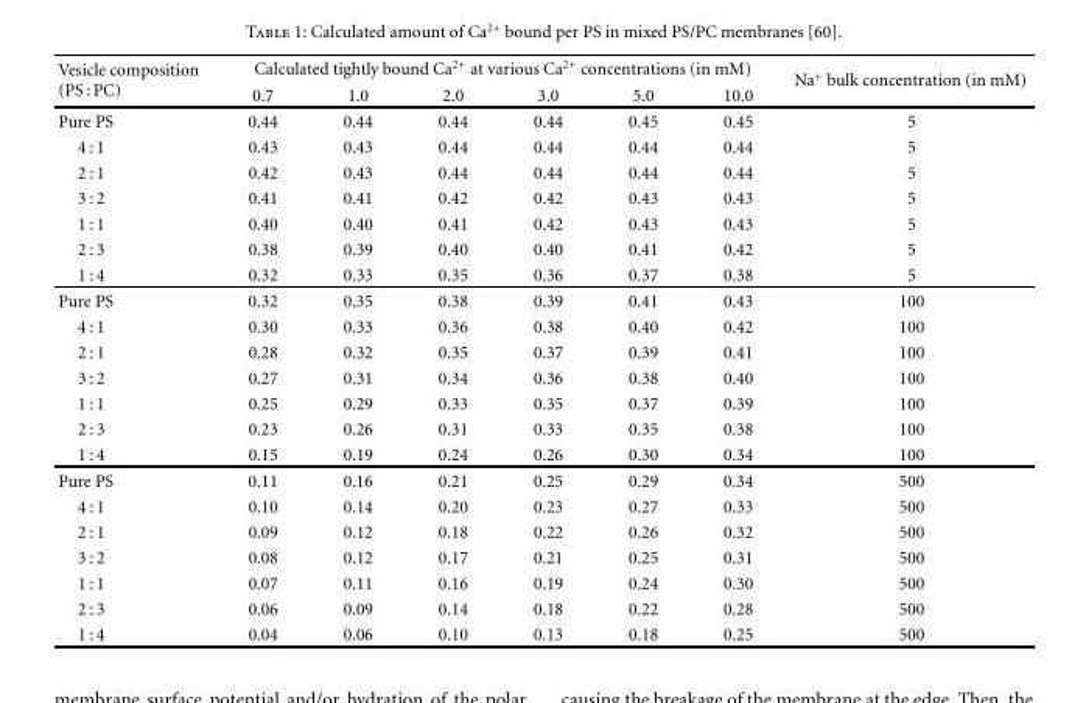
<table><thead><tr><td rowspan="2">Vesicle composition (PS : PC)</td><td colspan="6">Calculated tightly bound Ca<sup>2+</sup> at various Ca<sup>2+</sup> concentrations (in mM)</td><td rowspan="2">Na<sup>+</sup> bulk concentration (in mM)</td></tr><tr><td>0.7</td><td>1.0</td><td>2.0</td><td>3.0</td><td>5.0</td><td>10.0</td></tr></thead><tbody><tr><td>Pure PS</td><td>0.44</td><td>0.44</td><td>0.44</td><td>0.44</td><td>0.45</td><td>0.45</td><td>5</td></tr><tr><td>4 : 1</td><td>0.43</td><td>0.43</td><td>0.44</td><td>0.44</td><td>0.44</td><td>0.44</td><td>5</td></tr><tr><td>2 : 1</td><td>0.42</td><td>0.43</td><td>0.44</td><td>0.44</td><td>0.44</td><td>0.44</td><td>5</td></tr><tr><td>3 : 2</td><td>0.41</td><td>0.41</td><td>0.42</td><td>0.42</td><td>0.43</td><td>0.43</td><td>5</td></tr><tr><td>1 : 1</td><td>0.40</td><td>0.40</td><td>0.41</td><td>0.42</td><td>0.43</td><td>0.43</td><td>5</td></tr><tr><td>2 : 3</td><td>0.38</td><td>0.39</td><td>0.40</td><td>0.40</td><td>0.41</td><td>0.42</td><td>5</td></tr><tr><td>1 : 4</td><td>0.32</td><td>0.33</td><td>0.35</td><td>0.36</td><td>0.37</td><td>0.38</td><td>5</td></tr><tr><td>Pure PS</td><td>0.32</td><td>0.35</td><td>0.38</td><td>0.39</td><td>0.41</td><td>0.43</td><td>100</td></tr><tr><td>4 : 1</td><td>0.30</td><td>0.33</td><td>0.36</td><td>0.38</td><td>0.40</td><td>0.42</td><td>100</td></tr><tr><td>2 : 1</td><td>0.28</td><td>0.32</td><td>0.35</td><td>0.37</td><td>0.39</td><td>0.41</td><td>100</td></tr><tr><td>3 : 2</td><td>0.27</td><td>0.31</td><td>0.34</td><td>0.36</td><td>0.38</td><td>0.40</td><td>100</td></tr><tr><td>1 : 1</td><td>0.25</td><td>0.29</td><td>0.33</td><td>0.35</td><td>0.37</td><td>0.39</td><td>100</td></tr><tr><td>2 : 3</td><td>0.23</td><td>0.26</td><td>0.31</td><td>0.33</td><td>0.35</td><td>0.38</td><td>100</td></tr><tr><td>1 : 4</td><td>0.15</td><td>0.19</td><td>0.24</td><td>0.26</td><td>0.30</td><td>0.34</td><td>100</td></tr><tr><td>Pure PS</td><td>0.11</td><td>0.16</td><td>0.21</td><td>0.25</td><td>0.29</td><td>0.34</td><td>500</td></tr><tr><td>4 : 1</td><td>0.10</td><td>0.14</td><td>0.20</td><td>0.23</td><td>0.27</td><td>0.33</td><td>500</td></tr><tr><td>2 : 1</td><td>0.09</td><td>0.12</td><td>0.18</td><td>0.22</td><td>0.26</td><td>0.32</td><td>500</td></tr><tr><td>3 : 2</td><td>0.08</td><td>0.12</td><td>0.17</td><td>0.21</td><td>0.25</td><td>0.31</td><td>500</td></tr><tr><td>1 : 1</td><td>0.07</td><td>0.11</td><td>0.16</td><td>0.19</td><td>0.24</td><td>0.30</td><td>500</td></tr><tr><td>2 : 3</td><td>0.06</td><td>0.09</td><td>0.14</td><td>0.18</td><td>0.22</td><td>0.28</td><td>500</td></tr><tr><td>1 : 4</td><td>0.04</td><td>0.06</td><td>0.10</td><td>0.13</td><td>0.18</td><td>0.25</td><td>500</td></tr></tbody></table>